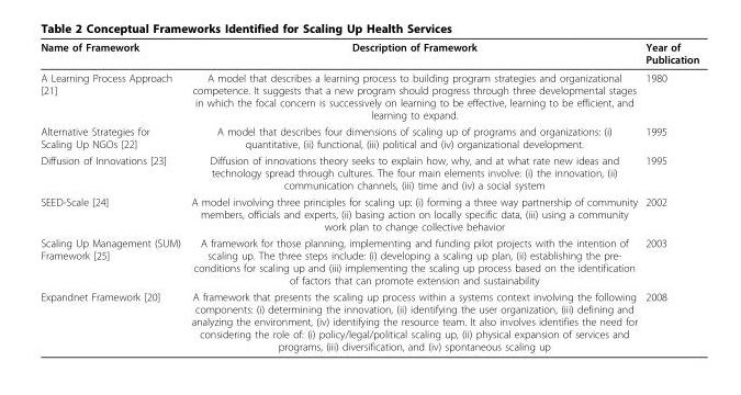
<table><thead><tr><td>Name of Framework</td><td>Description of Framework</td><td>Year of Publication</td></tr></thead><tbody><tr><td>A Learning Process Approach [21]</td><td>A model that describes a learning process to building program strategies and organizational competence. It suggests that a new program should progress through three developmental stages in which the focal concern is successively on learning to be effective, learning to be efficient, and learning to expand.</td><td>1980</td></tr><tr><td>Alternative Strategies for Scaling Up NGOs [22]</td><td>A model that describes four dimensions of scaling up of programs and organizations: (i) quantitative, (ii) functional, (iii) political and (iv) organizational development.</td><td>1995</td></tr><tr><td>Diffusion of Innovations [23]</td><td>Diffusion of innovations theory seeks to explain how, why, and at what rate new ideas and technology spread through cultures. The four main elements involve: (i) the innovation, (ii) communication channels, (iii) time and (iv) a social system</td><td>1995</td></tr><tr><td>SEED-Scale [24]</td><td>A model involving three principles for scaling up: (i) forming a three way partnership of community members, officials and experts, (ii) basing action on locally specific data, (iii) using a community work plan to change collective behavior</td><td>2002</td></tr><tr><td>Scaling Up Management (SUM) Framework [25]</td><td>A framework for those planning, implementing and funding pilot projects with the intention of scaling up. The three steps include: (i) developing a scaling up plan, (ii) establishing the pre- conditions for scaling up and (iii) implementing the scaling up process based on the identification of factors that can promote extension and sustainability</td><td>2003</td></tr><tr><td>Expandnet Framework [20]</td><td>A framework that presents the scaling up process within a systems context involving the following components: (i) determining the innovation, (ii) identifying the user organization, (iii) defining and analyzing the environment, (iv) identifying the resource team. It also involves identifies the need for considering the role of: (i) policy/legal/political scaling up, (ii) physical expansion of services and programs, (iii) diversification, and (iv) spontaneous scaling up</td><td>2008</td></tr></tbody></table>